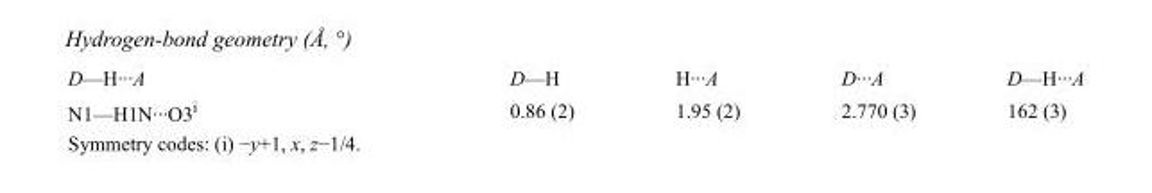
<table><tbody><tr><td>D—H···A</td><td>D—H</td><td>H···A</td><td>D···A</td><td>D—H···A</td></tr><tr><td>N1—H1N···O3<sup>i</sup></td><td>0.86 (2)</td><td>1.95 (2)</td><td>2.770 (3)</td><td>162 (3)</td></tr></tbody></table>